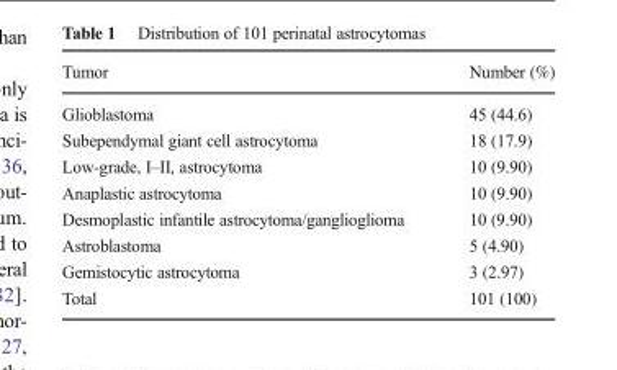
<table><thead><tr><td>Tumor</td><td>Number (%)</td></tr></thead><tbody><tr><td>Glioblastoma</td><td>45 (44.6)</td></tr><tr><td>Subependymal giant cell astrocytoma</td><td>18 (17.9)</td></tr><tr><td>Low-grade, I–II, astrocytoma</td><td>10 (9.90)</td></tr><tr><td>Anaplastic astrocytoma</td><td>10 (9.90)</td></tr><tr><td>Desmoplastic infantile astrocytoma/ganglioglioma</td><td>10 (9.90)</td></tr><tr><td>Astroblastoma</td><td>5 (4.90)</td></tr><tr><td>Gemistocytic astrocytoma</td><td>3 (2.97)</td></tr><tr><td>Total</td><td>101 (100)</td></tr></tbody></table>